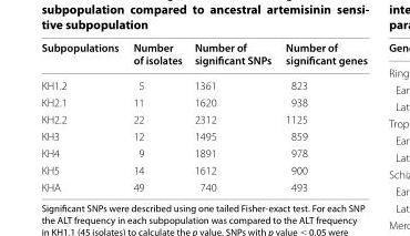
<table><thead><tr><td>Subpopulations</td><td>Number of isolates</td><td>Number of significant SNPs</td><td>Number of significant genes</td></tr></thead><tbody><tr><td>KH1.2</td><td>5</td><td>1361</td><td>823</td></tr><tr><td>KH2.1</td><td>11</td><td>1620</td><td>938</td></tr><tr><td>KH2.2</td><td>22</td><td>2312</td><td>1125</td></tr><tr><td>KH3</td><td>12</td><td>1495</td><td>859</td></tr><tr><td>KH4</td><td>9</td><td>1891</td><td>978</td></tr><tr><td>KH5</td><td>14</td><td>1612</td><td>900</td></tr><tr><td>KHA</td><td>49</td><td>740</td><td>493</td></tr></tbody></table>